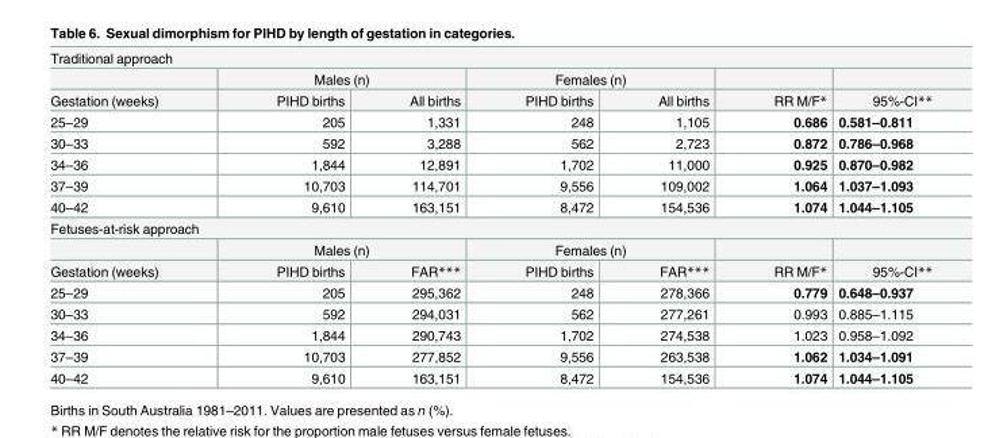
<table><tbody><tr><td colspan="7">Traditional approach</td></tr><tr><td></td><td colspan="2">Males (n)</td><td colspan="2">Females (n)</td><td></td><td></td></tr><tr><td>Gestation (weeks)</td><td>PIHD births</td><td>All births</td><td>PIHD births</td><td>All births</td><td>RR M/F*</td><td>95%-CI**</td></tr><tr><td>25–29</td><td>205</td><td>1,331</td><td>248</td><td>1,105</td><td>0.686</td><td>0.581–0.811</td></tr><tr><td>30–33</td><td>592</td><td>3,288</td><td>562</td><td>2,723</td><td>0.872</td><td>0.786–0.968</td></tr><tr><td>34–36</td><td>1,844</td><td>12,891</td><td>1,702</td><td>11,000</td><td>0.925</td><td>0.870–0.982</td></tr><tr><td>37–39</td><td>10,703</td><td>114,701</td><td>9,556</td><td>109,002</td><td>1.064</td><td>1.037–1.093</td></tr><tr><td>40–42</td><td>9,610</td><td>163,151</td><td>8,472</td><td>154,536</td><td>1.074</td><td>1.044–1.105</td></tr><tr><td colspan="7">Fetuses-at-risk approach</td></tr><tr><td></td><td colspan="2">Males (n)</td><td colspan="2">Females (n)</td><td></td><td></td></tr><tr><td>Gestation (weeks)</td><td>PIHD births</td><td>FAR***</td><td>PIHD births</td><td>FAR***</td><td>RR M/F*</td><td>95%-CI**</td></tr><tr><td>25–29</td><td>205</td><td>295,362</td><td>248</td><td>278,366</td><td>0.779</td><td>0.648–0.937</td></tr><tr><td>30–33</td><td>592</td><td>294,031</td><td>562</td><td>277,261</td><td>0.993</td><td>0.885–1.115</td></tr><tr><td>34–36</td><td>1,844</td><td>290,743</td><td>1,702</td><td>274,538</td><td>1.023</td><td>0.958–1.092</td></tr><tr><td>37–39</td><td>10,703</td><td>277,852</td><td>9,556</td><td>263,538</td><td>1.062</td><td>1.034–1.091</td></tr><tr><td>40–42</td><td>9,610</td><td>163,151</td><td>8,472</td><td>154,536</td><td>1.074</td><td>1.044–1.105</td></tr></tbody></table>